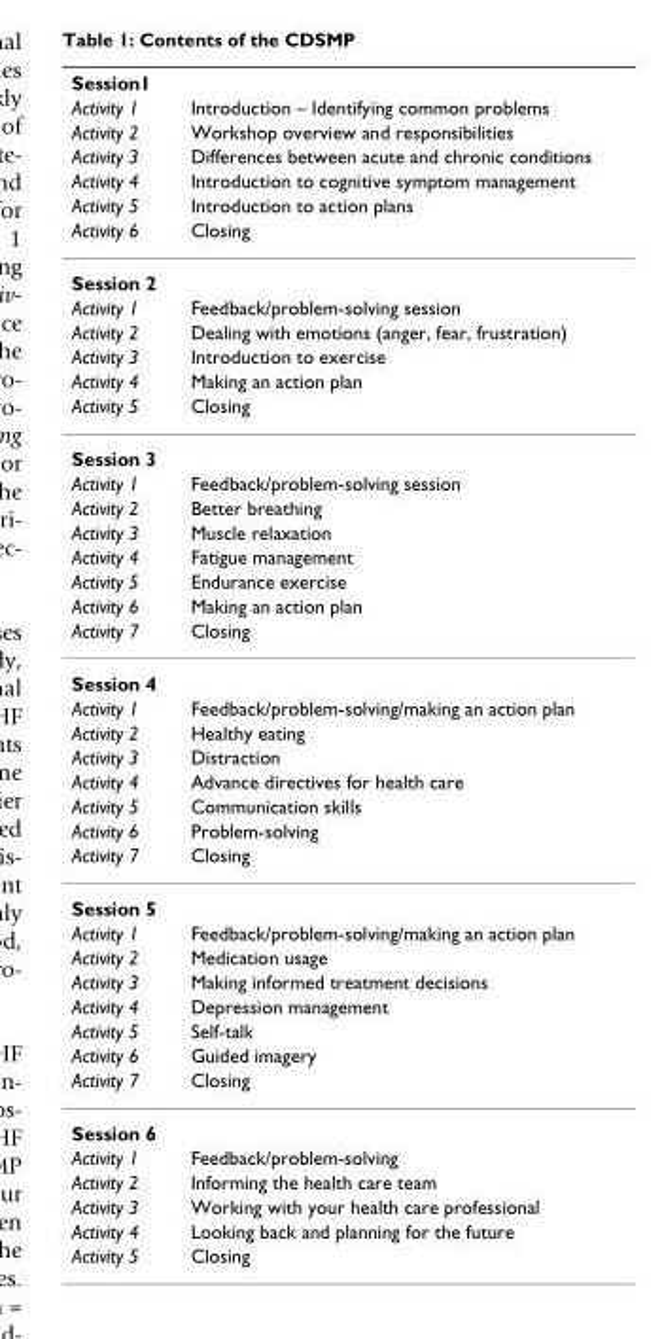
<table><thead><tr><td rowspan="7">Session1 Activity 1 Activity 2 Activity 3 Activity 4 Activity 5 Activity 6</td><td rowspan="7">Introduction – Identifying common problems Workshop overview and responsibilities Differences between acute and chronic conditions Introduction to cognitive symptom management Introduction to action plans Closing</td></tr><tr></tr><tr></tr><tr></tr><tr></tr><tr></tr><tr></tr></thead><tbody><tr><td colspan="2">Session 2</td></tr><tr><td>Activity 1</td><td>Feedback/problem-solving session</td></tr><tr><td>Activity 2</td><td>Dealing with emotions (anger, fear, frustration)</td></tr><tr><td>Activity 3</td><td>Introduction to exercise</td></tr><tr><td>Activity 4</td><td>Making an action plan</td></tr><tr><td>Activity 5</td><td>Closing</td></tr><tr><td colspan="2">Session 3</td></tr><tr><td>Activity 1</td><td>Feedback/problem-solving session</td></tr><tr><td>Activity 2</td><td>Better breathing</td></tr><tr><td>Activity 3</td><td>Muscle relaxation</td></tr><tr><td>Activity 4</td><td>Fatigue management</td></tr><tr><td>Activity 5</td><td>Endurance exercise</td></tr><tr><td>Activity 6</td><td>Making an action plan</td></tr><tr><td>Activity 7</td><td>Closing</td></tr><tr><td colspan="2">Session 4</td></tr><tr><td>Activity 1</td><td>Feedback/problem-solving/making an action plan</td></tr><tr><td>Activity 2</td><td>Healthy eating</td></tr><tr><td>Activity 3</td><td>Distraction</td></tr><tr><td>Activity 4</td><td>Advance directives for health care</td></tr><tr><td>Activity 5</td><td>Communication skills</td></tr><tr><td>Activity 6</td><td>Problem-solving</td></tr><tr><td>Activity 7</td><td>Closing</td></tr><tr><td colspan="2">Session 5</td></tr><tr><td>Activity 1</td><td>Feedback/problem-solving/making an action plan</td></tr><tr><td>Activity 2</td><td>Medication usage</td></tr><tr><td>Activity 3</td><td>Making informed treatment decisions</td></tr><tr><td>Activity 4</td><td>Depression management</td></tr><tr><td>Activity 5</td><td>Self-talk</td></tr><tr><td>Activity 6</td><td>Guided imagery</td></tr><tr><td>Activity 7</td><td>Closing</td></tr><tr><td colspan="2">Session 6</td></tr><tr><td>Activity 1</td><td>Feedback/problem-solving</td></tr><tr><td>Activity 2</td><td>Informing the health care team</td></tr><tr><td>Activity 3</td><td>Working with your health care professional</td></tr><tr><td>Activity 4</td><td>Looking back and planning for the future</td></tr><tr><td>Activity 5</td><td>Closing</td></tr></tbody></table>